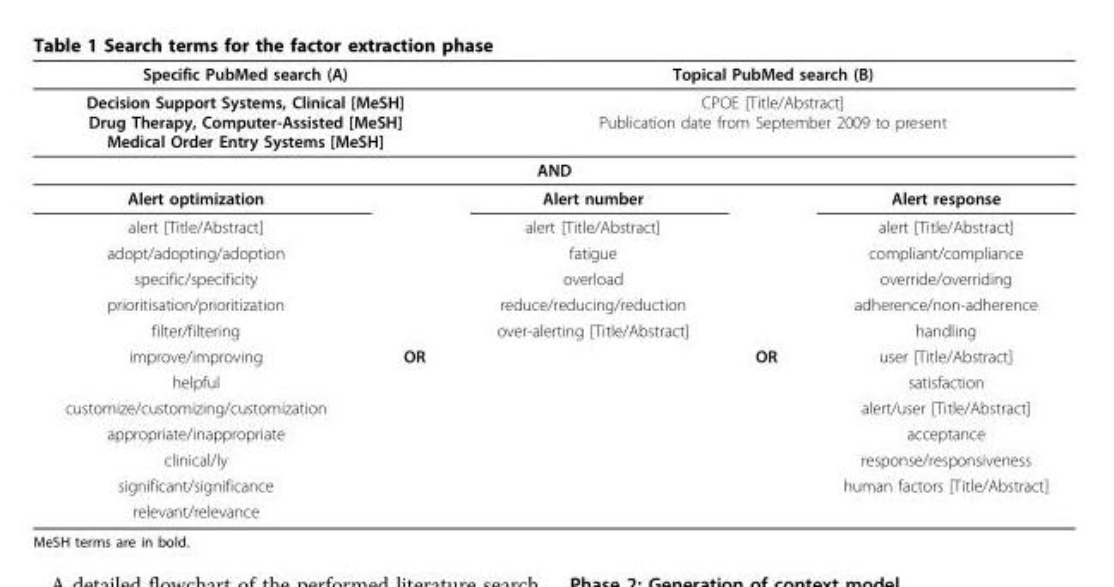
<table><thead><tr><td rowspan="2" colspan="2">Specific PubMed search (A) Decision Support Systems, Clinical [MeSH] Drug Therapy, Computer-Assisted [MeSH] Medical Order Entry Systems [MeSH]</td><td rowspan="2" colspan="3">Topical PubMed search (B) CPOE [Title/Abstract] Publication date from September 2009 to present</td></tr><tr></tr><tr><td colspan="5">AND</td></tr><tr><td>Alert optimization</td><td></td><td>Alert number</td><td></td><td>Alert response</td></tr></thead><tbody><tr><td>alert [Title/Abstract]</td><td></td><td>alert [Title/Abstract]</td><td></td><td>alert [Title/Abstract]</td></tr><tr><td>adopt/adopting/adoption</td><td></td><td>fatigue</td><td></td><td>compliant/compliance</td></tr><tr><td>specific/specificity</td><td></td><td>overload</td><td></td><td>override/overriding</td></tr><tr><td>prioritisation/prioritization</td><td></td><td>reduce/reducing/reduction</td><td></td><td>adherence/non-adherence</td></tr><tr><td>filter/filtering</td><td></td><td>over-alerting [Title/Abstract]</td><td></td><td>handling</td></tr><tr><td>improve/improving</td><td>OR</td><td></td><td>OR</td><td>user [Title/Abstract]</td></tr><tr><td>helpful</td><td></td><td></td><td></td><td>satisfaction</td></tr><tr><td>customize/customizing/customization</td><td></td><td></td><td></td><td>alert/user [Title/Abstract]</td></tr><tr><td>appropriate/inappropriate</td><td></td><td></td><td></td><td>acceptance</td></tr><tr><td>clinical/ly</td><td></td><td></td><td></td><td>response/responsiveness</td></tr><tr><td>significant/significance</td><td></td><td></td><td></td><td>human factors [Title/Abstract]</td></tr><tr><td>relevant/relevance</td><td></td><td></td><td></td><td></td></tr></tbody></table>